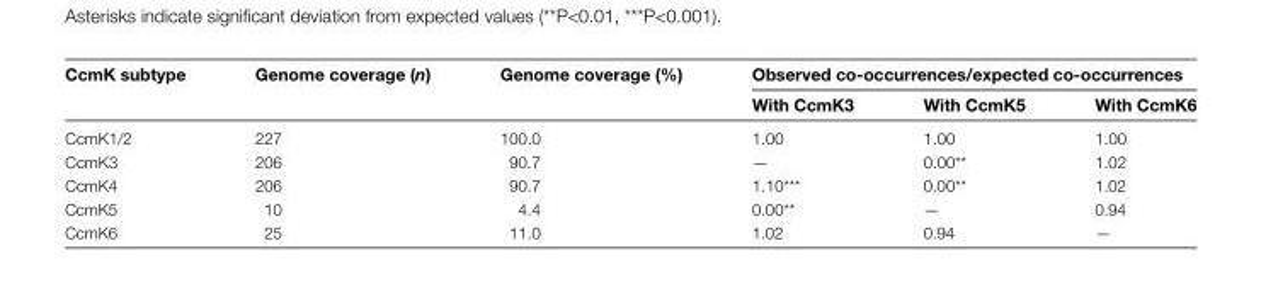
<table><thead><tr><td rowspan="2">CcmK subtype</td><td rowspan="2">Genome coverage (n)</td><td rowspan="2">Genome coverage (%)</td><td colspan="3">Observed co-occurrences/expected co-occurrences</td></tr><tr><td>With CcmK3</td><td>With CcmK5</td><td>With CcmK6</td></tr></thead><tbody><tr><td>CcmK1/2</td><td>227</td><td>100.0</td><td>1.00</td><td>1.00</td><td>1.00</td></tr><tr><td>CcmK3</td><td>206</td><td>90.7</td><td>—</td><td>0.00**</td><td>1.02</td></tr><tr><td>CcmK4</td><td>206</td><td>90.7</td><td>1.10***</td><td>0.00**</td><td>1.02</td></tr><tr><td>CcmK5</td><td>10</td><td>4.4</td><td>0.00**</td><td>—</td><td>0.94</td></tr><tr><td>CcmK6</td><td>25</td><td>11.0</td><td>1.02</td><td>0.94</td><td>—</td></tr></tbody></table>